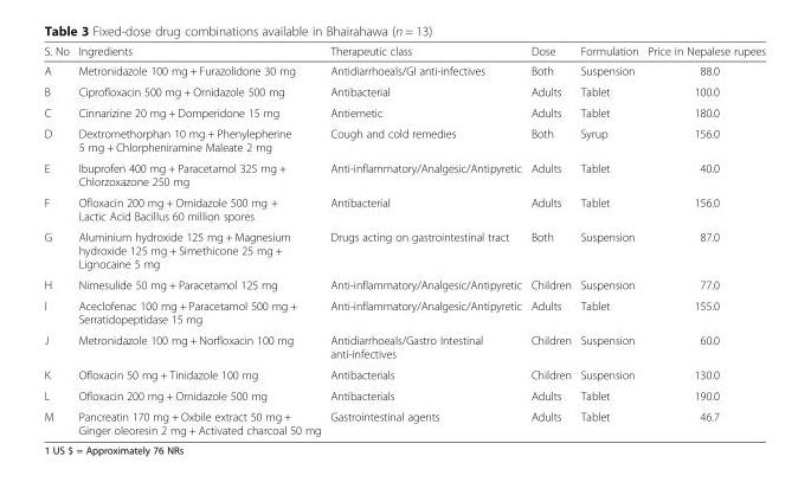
<table><thead><tr><td>S. No</td><td>Ingredients</td><td>Therapeutic class</td><td>Dose</td><td>Formulation</td><td>Price in Nepalese rupees</td></tr></thead><tbody><tr><td>A</td><td>Metronidazole 100 mg + Furazolidone 30 mg</td><td>Antidiarrhoeals/GI anti-infectives</td><td>Both</td><td>Suspension</td><td>88.0</td></tr><tr><td>B</td><td>Ciprofloxacin 500 mg + Ornidazole 500 mg</td><td>Antibacterial</td><td>Adults</td><td>Tablet</td><td>100.0</td></tr><tr><td>C</td><td>Cinnarizine 20 mg + Domperidone 15 mg</td><td>Antiemetic</td><td>Adults</td><td>Tablet</td><td>180.0</td></tr><tr><td>D</td><td>Dextromethorphan 10 mg + Phenylepherine 5 mg + Chlorpheniramine Maleate 2 mg</td><td>Cough and cold remedies</td><td>Both</td><td>Syrup</td><td>156.0</td></tr><tr><td>E</td><td>Ibuprofen 400 mg + Paracetamol 325 mg + Chlorzoxazone 250 mg</td><td>Anti-inflammatory/Analgesic/Antipyretic</td><td>Adults</td><td>Tablet</td><td>40.0</td></tr><tr><td>F</td><td>Ofloxacin 200 mg + Ornidazole 500 mg + Lactic Acid Bacillus 60 million spores</td><td>Antibacterial</td><td>Adults</td><td>Tablet</td><td>156.0</td></tr><tr><td>G</td><td>Aluminium hydroxide 125 mg + Magnesium hydroxide 125 mg + Simethicone 25 mg + Lignocaine 5 mg</td><td>Drugs acting on gastrointestinal tract</td><td>Both</td><td>Suspension</td><td>87.0</td></tr><tr><td>H</td><td>Nimesulide 50 mg + Paracetamol 125 mg</td><td>Anti-inflammatory/Analgesic/Antipyretic</td><td>Children</td><td>Suspension</td><td>77.0</td></tr><tr><td>I</td><td>Aceclofenac 100 mg + Paracetamol 500 mg + Serratidopeptidase 15 mg</td><td>Anti-inflammatory/Analgesic/Antipyretic</td><td>Adults</td><td>Tablet</td><td>155.0</td></tr><tr><td>J</td><td>Metronidazole 100 mg + Norfloxacin 100 mg</td><td>Antidiarrhoeals/Gastro Intestinal anti-infectives</td><td>Children</td><td>Suspension</td><td>60.0</td></tr><tr><td>K</td><td>Ofloxacin 50 mg + Tinidazole 100 mg</td><td>Antibacterials</td><td>Children</td><td>Suspension</td><td>130.0</td></tr><tr><td>L</td><td>Ofloxacin 200 mg + Ornidazole 500 mg</td><td>Antibacterials</td><td>Adults</td><td>Tablet</td><td>190.0</td></tr><tr><td>M</td><td>Pancreatin 170 mg + Oxbile extract 50 mg + Ginger oleoresin 2 mg + Activated charcoal 50 mg</td><td>Gastrointestinal agents</td><td>Adults</td><td>Tablet</td><td>46.7</td></tr></tbody></table>